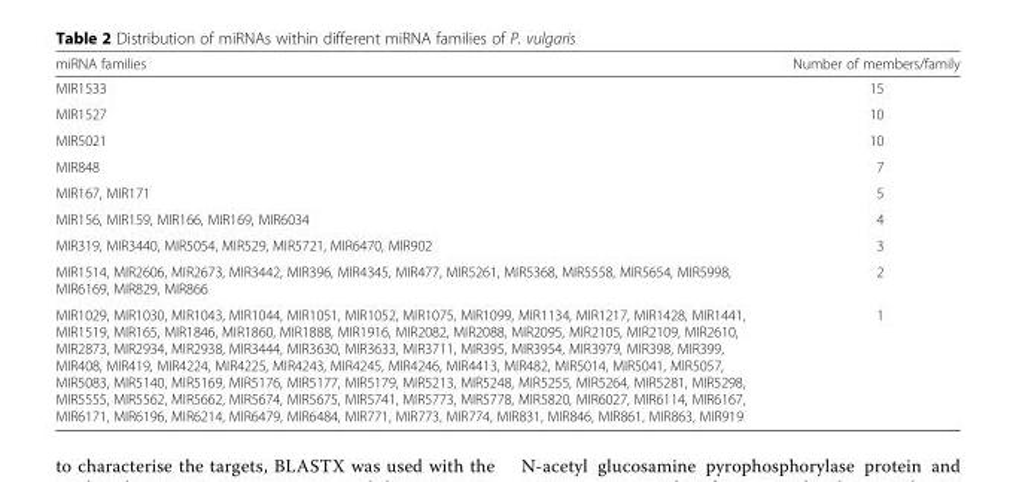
<table><thead><tr><td>miRNA families</td><td>Number of members/family</td></tr></thead><tbody><tr><td>MIR1533</td><td>15</td></tr><tr><td>MIR1527</td><td>10</td></tr><tr><td>MIR5021</td><td>10</td></tr><tr><td>MIR848</td><td>7</td></tr><tr><td>MIR167, MIR171</td><td>5</td></tr><tr><td>MIR156, MIR159, MIR166, MIR169, MIR6034</td><td>4</td></tr><tr><td>MIR319, MIR3440, MIR5054, MIR529, MIR5721, MIR6470, MIR902</td><td>3</td></tr><tr><td>MIR1514, MIR2606, MIR2673, MIR3442, MIR396, MIR4345, MIR477, MIR5261, MIR5368, MIR5558, MIR5654, MIR5998, MIR6169, MIR829, MIR866</td><td>2</td></tr><tr><td>MIR1029, MIR1030, MIR1043, MIR1044, MIR1051, MIR1052, MIR1075, MIR1099, MIR1134, MIR1217, MIR1428, MIR1441, MIR1519, MIR165, MIR1846, MIR1860, MIR1888, MIR1916, MIR2082, MIR2088, MIR2095, MIR2105, MIR2109, MIR2610, MIR2873, MIR2934, MIR2938, MIR3444, MIR3630, MIR3633, MIR3711, MIR395, MIR3954, MIR3979, MIR398, MIR399, MIR408, MIR419, MIR4224, MIR4225, MIR4243, MIR4245, MIR4246, MIR4413, MIR482, MIR5014, MIR5041, MIR5057, MIR5083, MIR5140, MIR5169, MIR5176, MIR5177, MIR5179, MIR5213, MIR5248, MIR5255, MIR5264, MIR5281, MIR5298, MIR5555, MIR5562, MIR5662, MIR5674, MIR5675, MIR5741, MIR5773, MIR5778, MIR5820, MIR6027, MIR6114, MIR6167, MIR6171, MIR6196, MIR6214, MIR6479, MIR6484, MIR771, MIR773, MIR774, MIR831, MIR846, MIR861, MIR863, MIR919</td><td>1</td></tr></tbody></table>